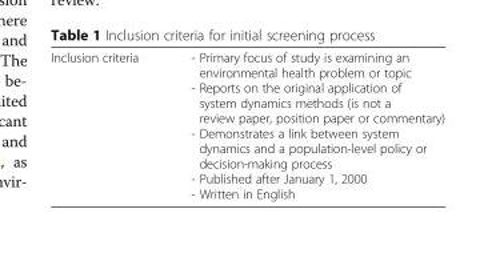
<table><tbody><tr><td>Inclusion criteria</td><td>- Primary focus of study is examining an environmental health problem or topic - Reports on the original application of system dynamics methods (is not a review paper, position paper or commentary) - Demonstrates a link between system dynamics and a population-level policy or decision-making process - Published after January 1, 2000 - Written in English</td></tr></tbody></table>